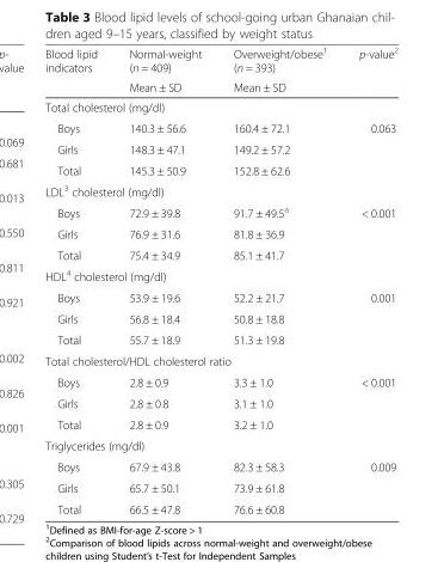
<table><thead><tr><td rowspan="2">Blood lipid indicators</td><td rowspan="2">Normal-weight (n = 409) Mean ± SD</td><td rowspan="2">Overweight/obese<sup>1</sup> (n = 393) Mean ± SD</td><td rowspan="2">p-value<sup>2</sup></td></tr><tr></tr></thead><tbody><tr><td colspan="4">Total cholesterol (mg/dl)</td></tr><tr><td>Boys</td><td>140.3 ± 56.6</td><td>160.4 ± 72.1</td><td rowspan="2">0.063</td></tr><tr><td>Girls</td><td>148.3 ± 47.1</td><td>149.2 ± 57.2</td></tr><tr><td>Total</td><td>145.3 ± 50.9</td><td>152.8 ± 62.6</td><td></td></tr><tr><td colspan="4">LDL<sup>3</sup> cholesterol (mg/dl)</td></tr><tr><td>Boys</td><td>72.9 ± 39.8</td><td>91.7 ± 49.5<sup>a</sup></td><td rowspan="2">&lt; 0.001</td></tr><tr><td>Girls</td><td>76.9 ± 31.6</td><td>81.8 ± 36.9</td></tr><tr><td>Total</td><td>75.4 ± 34.9</td><td>85.1 ± 41.7</td><td></td></tr><tr><td colspan="4">HDL<sup>4</sup> cholesterol (mg/dl)</td></tr><tr><td>Boys</td><td>53.9 ± 19.6</td><td>52.2 ± 21.7</td><td rowspan="2">0.001</td></tr><tr><td>Girls</td><td>56.8 ± 18.4</td><td>50.8 ± 18.8</td></tr><tr><td>Total</td><td>55.7 ± 18.9</td><td>51.3 ± 19.8</td><td></td></tr><tr><td colspan="4">Total cholesterol/HDL cholesterol ratio</td></tr><tr><td>Boys</td><td>2.8 ± 0.9</td><td>3.3 ± 1.0</td><td rowspan="2">&lt; 0.001</td></tr><tr><td>Girls</td><td>2.8 ± 0.8</td><td>3.1 ± 1.0</td></tr><tr><td>Total</td><td>2.8 ± 0.9</td><td>3.2 ± 1.0</td><td></td></tr><tr><td colspan="4">Triglycerides (mg/dl)</td></tr><tr><td>Boys</td><td>67.9 ± 43.8</td><td>82.3 ± 58.3</td><td rowspan="2">0.009</td></tr><tr><td>Girls</td><td>65.7 ± 50.1</td><td>73.9 ± 61.8</td></tr><tr><td>Total</td><td>66.5 ± 47.8</td><td>76.6 ± 60.8</td><td></td></tr></tbody></table>